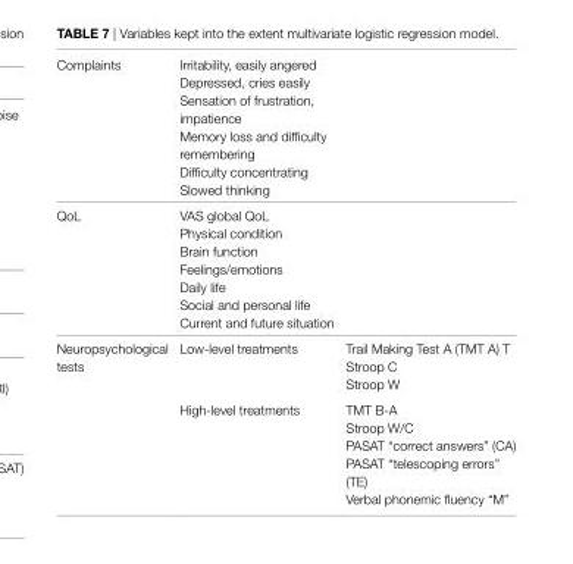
<table><tbody><tr><td rowspan="6">Complaints</td><td>Irritability, easily angered</td><td rowspan="6"></td></tr><tr><td>Depressed, cries easily</td></tr><tr><td>Sensation of frustration, impatience</td></tr><tr><td>Memory loss and difficulty remembering</td></tr><tr><td>Difficulty concentrating</td></tr><tr><td>Slowed thinking</td></tr><tr><td rowspan="7">QoL</td><td>VAS global QoL</td><td rowspan="7"></td></tr><tr><td>Physical condition</td></tr><tr><td>Brain function</td></tr><tr><td>Feelings/emotions</td></tr><tr><td>Daily life</td></tr><tr><td>Social and personal life</td></tr><tr><td>Current and future situation</td></tr><tr><td rowspan="8">Neuropsychological tests</td><td rowspan="3">Low-level treatments</td><td>Trail Making Test A (TMT A) T</td></tr><tr><td>Stroop C</td></tr><tr><td>Stroop W</td></tr><tr><td rowspan="5">High-level treatments</td><td>TMT B-A</td></tr><tr><td>Stroop W/C</td></tr><tr><td>PASAT “correct answers” (CA)</td></tr><tr><td>PASAT “telescoping errors” (TE)</td></tr><tr><td>Verbal phonemic fluency “M”</td></tr></tbody></table>